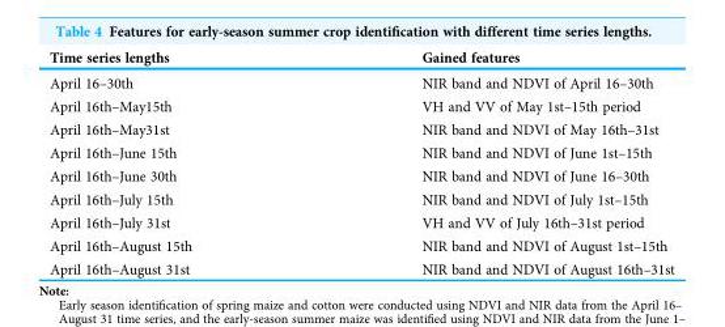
<table><thead><tr><td>Time series lengths</td><td>Gained features</td></tr></thead><tbody><tr><td>April 16–30th</td><td>NIR band and NDVI of April 16–30th</td></tr><tr><td>April 16th–May15th</td><td>VH and VV of May 1st–15th period</td></tr><tr><td>April 16th–May31st</td><td>NIR band and NDVI of May 16th–31st</td></tr><tr><td>April 16th–June 15th</td><td>NIR band and NDVI of June 1st–15th</td></tr><tr><td>April 16th–June 30th</td><td>NIR band and NDVI of June 16–30th</td></tr><tr><td>April 16th–July 15th</td><td>NIR band and NDVI of July 1st–15th</td></tr><tr><td>April 16th–July 31st</td><td>VH and VV of July 16th–31st period</td></tr><tr><td>April 16th–August 15th</td><td>NIR band and NDVI of August 1st–15th</td></tr><tr><td>April 16th–August 31st</td><td>NIR band and NDVI of August 16th–31st</td></tr></tbody></table>